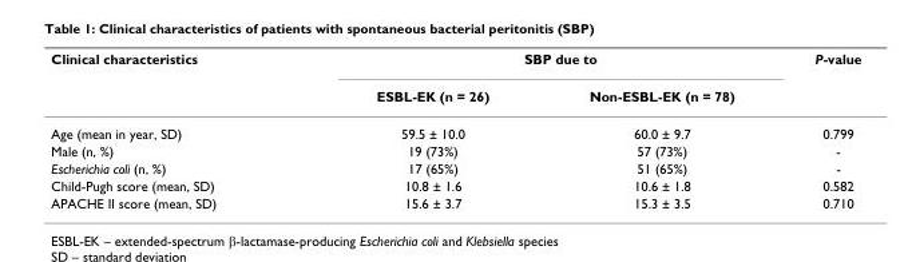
<table><thead><tr><td rowspan="2">Clinical characteristics</td><td colspan="2">SBP due to</td><td rowspan="2">P-value</td></tr><tr><td>ESBL-EK (n = 26)</td><td>Non-ESBL-EK (n = 78)</td></tr></thead><tbody><tr><td>Age (mean in year, SD)</td><td>59.5 ± 10.0</td><td>60.0 ± 9.7</td><td>0.799</td></tr><tr><td>Male (n, %)</td><td>19 (73%)</td><td>57 (73%)</td><td>-</td></tr><tr><td>Escherichia coli (n, %)</td><td>17 (65%)</td><td>51 (65%)</td><td>-</td></tr><tr><td>Child-Pugh score (mean, SD)</td><td>10.8 ± 1.6</td><td>10.6 ± 1.8</td><td>0.582</td></tr><tr><td>APACHE II score (mean, SD)</td><td>15.6 ± 3.7</td><td>15.3 ± 3.5</td><td>0.710</td></tr></tbody></table>